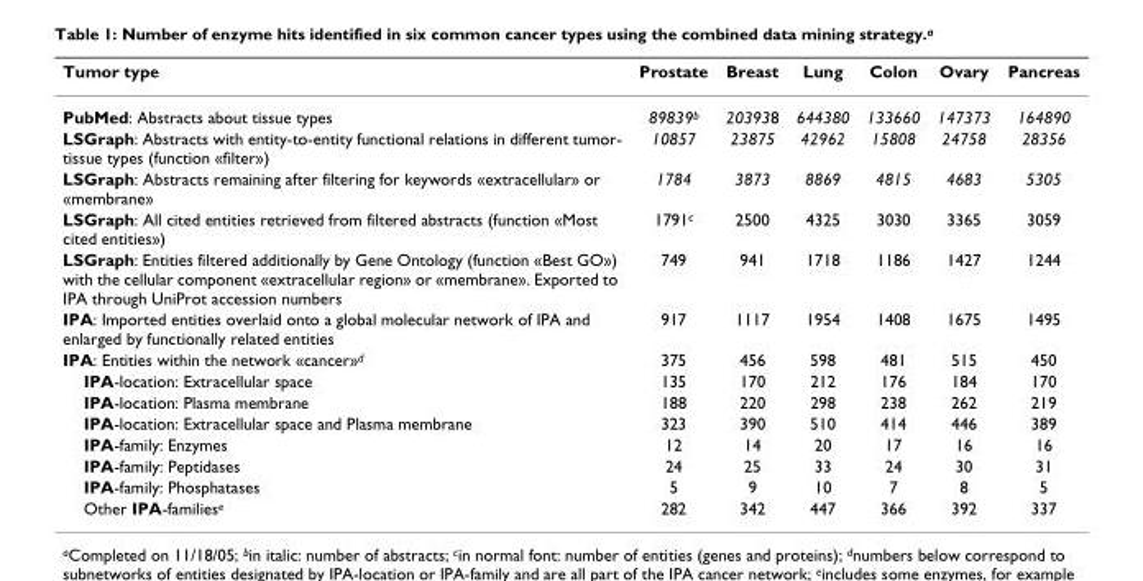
<table><thead><tr><td>Tumor type</td><td>Prostate</td><td>Breast</td><td>Lung</td><td>Colon</td><td>Ovary</td><td>Pancreas</td></tr></thead><tbody><tr><td>PubMed: Abstracts about tissue types</td><td>89839b</td><td>203938</td><td>644380</td><td>133660</td><td>147373</td><td>164890</td></tr><tr><td>LSGraph: Abstracts with entity-to-entity functional relations in different tumor- tissue types (function «filter»)</td><td>10857</td><td>23875</td><td>42962</td><td>15808</td><td>24758</td><td>28356</td></tr><tr><td>LSGraph: Abstracts remaining after filtering for keywords «extracellular» or «membrane»</td><td>1784</td><td>3873</td><td>8869</td><td>4815</td><td>4683</td><td>5305</td></tr><tr><td>LSGraph: All cited entities retrieved from filtered abstracts (function «Most cited entities»)</td><td>1791c</td><td>2500</td><td>4325</td><td>3030</td><td>3365</td><td>3059</td></tr><tr><td>LSGraph: Entities filtered additionally by Gene Ontology (function «Best GO») with the cellular component «extracellular region» or «membrane». Exported to IPA through UniProt accession numbers</td><td>749</td><td>941</td><td>1718</td><td>1186</td><td>1427</td><td>1244</td></tr><tr><td>IPA: Imported entities overlaid onto a global molecular network of IPA and enlarged by functionally related entities</td><td>917</td><td>1117</td><td>1954</td><td>1408</td><td>1675</td><td>1495</td></tr><tr><td>IPA: Entities within the network «cancer»d</td><td>375</td><td>456</td><td>598</td><td>481</td><td>515</td><td>450</td></tr><tr><td>IPA-location: Extracellular space</td><td>135</td><td>170</td><td>212</td><td>176</td><td>184</td><td>170</td></tr><tr><td>IPA-location: Plasma membrane</td><td>188</td><td>220</td><td>298</td><td>238</td><td>262</td><td>219</td></tr><tr><td>IPA-location: Extracellular space and Plasma membrane</td><td>323</td><td>390</td><td>510</td><td>414</td><td>446</td><td>389</td></tr><tr><td>IPA-family: Enzymes</td><td>12</td><td>14</td><td>20</td><td>17</td><td>16</td><td>16</td></tr><tr><td>IPA-family: Peptidases</td><td>24</td><td>25</td><td>33</td><td>24</td><td>30</td><td>31</td></tr><tr><td>IPA-family: Phosphatases</td><td>5</td><td>9</td><td>10</td><td>7</td><td>8</td><td>5</td></tr><tr><td>Other IPA-familiese</td><td>282</td><td>342</td><td>447</td><td>366</td><td>392</td><td>337</td></tr></tbody></table>